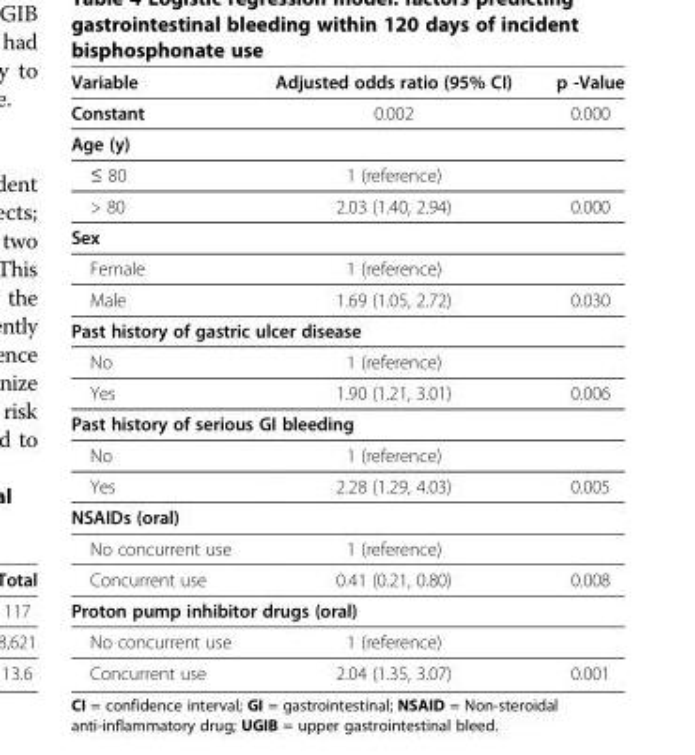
<table><thead><tr><td>Variable</td><td>Adjusted odds ratio (95% CI)</td><td>p -Value</td></tr></thead><tbody><tr><td>Constant</td><td>0.002</td><td>0.000</td></tr><tr><td colspan="3">Age (y)</td></tr><tr><td>≤ 80</td><td>1 (reference)</td><td></td></tr><tr><td>&gt; 80</td><td>2.03 (1.40, 2.94)</td><td>0.000</td></tr><tr><td colspan="3">Sex</td></tr><tr><td>Female</td><td>1 (reference)</td><td></td></tr><tr><td>Male</td><td>1.69 (1.05, 2.72)</td><td>0.030</td></tr><tr><td colspan="3">Past history of gastric ulcer disease</td></tr><tr><td>No</td><td>1 (reference)</td><td></td></tr><tr><td>Yes</td><td>1.90 (1.21, 3.01)</td><td>0.006</td></tr><tr><td colspan="3">Past history of serious GI bleeding</td></tr><tr><td>No</td><td>1 (reference)</td><td></td></tr><tr><td>Yes</td><td>2.28 (1.29, 4.03)</td><td>0.005</td></tr><tr><td colspan="3">NSAIDs (oral)</td></tr><tr><td>No concurrent use</td><td>1 (reference)</td><td></td></tr><tr><td>Concurrent use</td><td>0.41 (0.21, 0.80)</td><td>0.008</td></tr><tr><td colspan="3">Proton pump inhibitor drugs (oral)</td></tr><tr><td>No concurrent use</td><td>1 (reference)</td><td></td></tr><tr><td>Concurrent use</td><td>2.04 (1.35, 3.07)</td><td>0.001</td></tr></tbody></table>